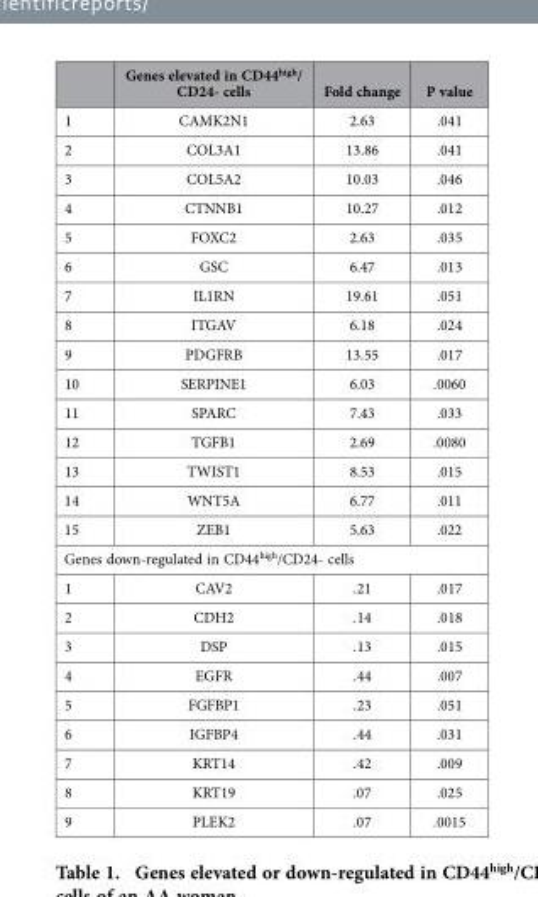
<table><thead><tr><td></td><td>Genes elevated in CD44<sup>high</sup>/ CD24- cells</td><td>Fold change</td><td>P value</td></tr></thead><tbody><tr><td>1</td><td>CAMK2N1</td><td>2.63</td><td>.041</td></tr><tr><td>2</td><td>COL3A1</td><td>13.86</td><td>.041</td></tr><tr><td>3</td><td>COL5A2</td><td>10.03</td><td>.046</td></tr><tr><td>4</td><td>CTNNB1</td><td>10.27</td><td>.012</td></tr><tr><td>5</td><td>FOXC2</td><td>2.63</td><td>.035</td></tr><tr><td>6</td><td>GSC</td><td>6.47</td><td>.013</td></tr><tr><td>7</td><td>IL1RN</td><td>19.61</td><td>.051</td></tr><tr><td>8</td><td>ITGAV</td><td>6.18</td><td>.024</td></tr><tr><td>9</td><td>PDGFRB</td><td>13.55</td><td>.017</td></tr><tr><td>10</td><td>SERPINE1</td><td>6.03</td><td>.0060</td></tr><tr><td>11</td><td>SPARC</td><td>7.43</td><td>.033</td></tr><tr><td>12</td><td>TGFB1</td><td>2.69</td><td>.0080</td></tr><tr><td>13</td><td>TWIST1</td><td>8.53</td><td>.015</td></tr><tr><td>14</td><td>WNT5A</td><td>6.77</td><td>.011</td></tr><tr><td>15</td><td>ZEB1</td><td>5.63</td><td>.022</td></tr><tr><td colspan="4">Genes down-regulated in CD44<sup>high</sup>/CD24- cells</td></tr><tr><td>1</td><td>CAV2</td><td>.21</td><td>.017</td></tr><tr><td>2</td><td>CDH2</td><td>.14</td><td>.018</td></tr><tr><td>3</td><td>DSP</td><td>.13</td><td>.015</td></tr><tr><td>4</td><td>EGFR</td><td>.44</td><td>.007</td></tr><tr><td>5</td><td>FGFBP1</td><td>.23</td><td>.051</td></tr><tr><td>6</td><td>IGFBP4</td><td>.44</td><td>.031</td></tr><tr><td>7</td><td>KRT14</td><td>.42</td><td>.009</td></tr><tr><td>8</td><td>KRT19</td><td>.07</td><td>.025</td></tr><tr><td>9</td><td>PLEK2</td><td>.07</td><td>.0015</td></tr></tbody></table>